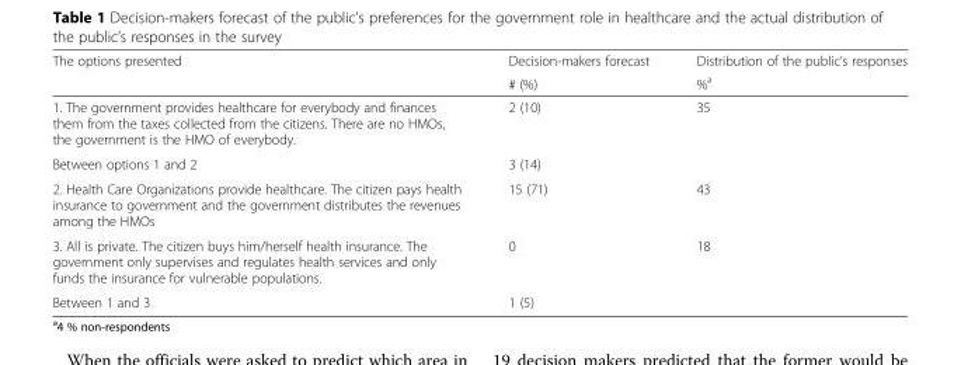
<table><thead><tr><td rowspan="2">The options presented</td><td rowspan="2">Decision-makers forecast # (%)</td><td rowspan="2">Distribution of the public’s responses %<sup>a</sup></td></tr><tr></tr></thead><tbody><tr><td>1. The government provides healthcare for everybody and finances them from the taxes collected from the citizens. There are no HMOs, the government is the HMO of everybody.</td><td>2 (10)</td><td>35</td></tr><tr><td>Between options 1 and 2</td><td>3 (14)</td><td></td></tr><tr><td>2. Health Care Organizations provide healthcare. The citizen pays health insurance to government and the government distributes the revenues among the HMOs</td><td>15 (71)</td><td>43</td></tr><tr><td>3. All is private. The citizen buys him/herself health insurance. The government only supervises and regulates health services and only funds the insurance for vulnerable populations.</td><td>0</td><td>18</td></tr><tr><td>Between 1 and 3</td><td>1 (5)</td><td></td></tr></tbody></table>